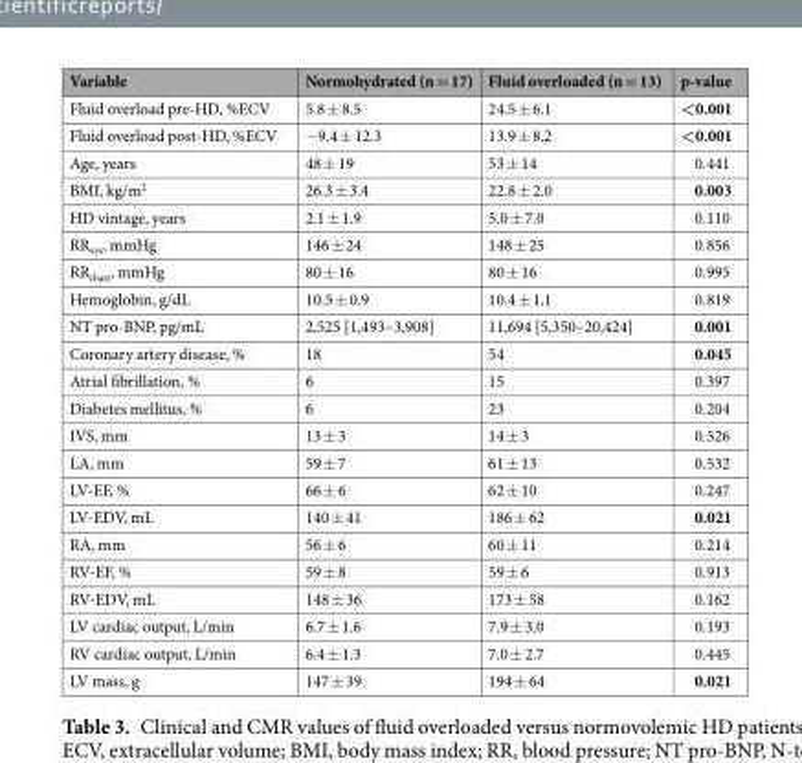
<table><thead><tr><td>Variable</td><td>Normohydrated (n = 17)</td><td>Fluid overloaded (n = 13)</td><td>p-value</td></tr></thead><tbody><tr><td>Fluid overload pre-HD, %ECV</td><td>5.8 ± 8.5</td><td>24.5 ± 6.1</td><td>&lt;0.001</td></tr><tr><td>Fluid overload post-HD, %ECV</td><td>−9.4 ± 12.3</td><td>13.9 ± 8.2</td><td>&lt;0.001</td></tr><tr><td>Age, years</td><td>48 ± 19</td><td>53 ± 14</td><td>0.441</td></tr><tr><td>BMI, kg/m<sup>2</sup></td><td>26.3 ± 3.4</td><td>22.8 ± 2.0</td><td>0.003</td></tr><tr><td>HD vintage, years</td><td>2.1 ± 1.9</td><td>5.0 ± 7.0</td><td>0.110</td></tr><tr><td>RR<sub>sys</sub>, mmHg</td><td>146 ± 24</td><td>148 ± 25</td><td>0.856</td></tr><tr><td>RR<sub>diast</sub>, mmHg</td><td>80 ± 16</td><td>80 ± 16</td><td>0.995</td></tr><tr><td>Hemoglobin, g/dL</td><td>10.5 ± 0.9</td><td>10.4 ± 1.1</td><td>0.819</td></tr><tr><td>NT pro-BNP, pg/mL</td><td>2,525 [1,493–3,908]</td><td>11,694 [5,350–20,424]</td><td>0.001</td></tr><tr><td>Coronary artery disease, %</td><td>18</td><td>54</td><td>0.045</td></tr><tr><td>Atrial fibrillation, %</td><td>6</td><td>15</td><td>0.397</td></tr><tr><td>Diabetes mellitus, %</td><td>6</td><td>23</td><td>0.204</td></tr><tr><td>IVS, mm</td><td>13 ± 3</td><td>14 ± 3</td><td>0.526</td></tr><tr><td>LA, mm</td><td>59 ± 7</td><td>61 ± 13</td><td>0.532</td></tr><tr><td>LV-EF, %</td><td>66 ± 6</td><td>62 ± 10</td><td>0.247</td></tr><tr><td>LV-EDV, mL</td><td>140 ± 41</td><td>186 ± 62</td><td>0.021</td></tr><tr><td>RA, mm</td><td>56 ± 6</td><td>60 ± 11</td><td>0.214</td></tr><tr><td>RV-EF, %</td><td>59 ± 8</td><td>59 ± 6</td><td>0.913</td></tr><tr><td>RV-EDV, mL</td><td>148 ± 36</td><td>173 ± 58</td><td>0.162</td></tr><tr><td>LV cardiac output, L/min</td><td>6.7 ± 1.6</td><td>7.9 ± 3.0</td><td>0.193</td></tr><tr><td>RV cardiac output, L/min</td><td>6.4 ± 1.3</td><td>7.0 ± 2.7</td><td>0.445</td></tr><tr><td>LV mass, g</td><td>147 ± 39</td><td>194 ± 64</td><td>0.021</td></tr></tbody></table>